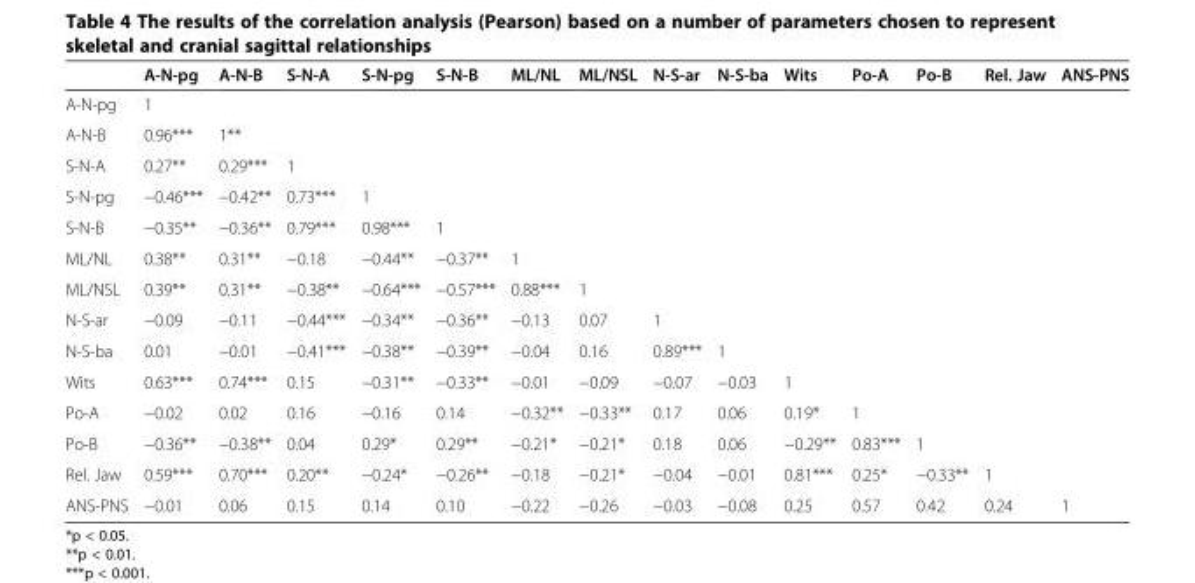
<table><thead><tr><td></td><td>A-N-pg</td><td>A-N-B</td><td>S-N-A</td><td>S-N-pg</td><td>S-N-B</td><td>ML/NL</td><td>ML/NSL</td><td>N-S-ar</td><td>N-S-ba</td><td>Wits</td><td>Po-A</td><td>Po-B</td><td>Rel. Jaw</td><td>ANS-PNS</td></tr></thead><tbody><tr><td>A-N-pg</td><td>1</td><td></td><td></td><td></td><td></td><td></td><td></td><td></td><td></td><td></td><td></td><td></td><td></td><td></td></tr><tr><td>A-N-B</td><td>0.96***</td><td>1**</td><td></td><td></td><td></td><td></td><td></td><td></td><td></td><td></td><td></td><td></td><td></td><td></td></tr><tr><td>S-N-A</td><td>0.27**</td><td>0.29***</td><td>1</td><td></td><td></td><td></td><td></td><td></td><td></td><td></td><td></td><td></td><td></td><td></td></tr><tr><td>S-N-pg</td><td>−0.46***</td><td>−0.42**</td><td>0.73***</td><td>1</td><td></td><td></td><td></td><td></td><td></td><td></td><td></td><td></td><td></td><td></td></tr><tr><td>S-N-B</td><td>−0.35**</td><td>−0.36**</td><td>0.79***</td><td>0.98***</td><td>1</td><td></td><td></td><td></td><td></td><td></td><td></td><td></td><td></td><td></td></tr><tr><td>ML/NL</td><td>0.38**</td><td>0.31**</td><td>−0.18</td><td>−0.44**</td><td>−0.37**</td><td>1</td><td></td><td></td><td></td><td></td><td></td><td></td><td></td><td></td></tr><tr><td>ML/NSL</td><td>0.39**</td><td>0.31**</td><td>−0.38**</td><td>−0.64***</td><td>−0.57***</td><td>0.88***</td><td>1</td><td></td><td></td><td></td><td></td><td></td><td></td><td></td></tr><tr><td>N-S-ar</td><td>−0.09</td><td>−0.11</td><td>−0.44***</td><td>−0.34**</td><td>−0.36**</td><td>−0.13</td><td>0.07</td><td>1</td><td></td><td></td><td></td><td></td><td></td><td></td></tr><tr><td>N-S-ba</td><td>0.01</td><td>−0.01</td><td>−0.41***</td><td>−0.38**</td><td>−0.39**</td><td>−0.04</td><td>0.16</td><td>0.89***</td><td>1</td><td></td><td></td><td></td><td></td><td></td></tr><tr><td>Wits</td><td>0.63***</td><td>0.74***</td><td>0.15</td><td>−0.31**</td><td>−0.33**</td><td>−0.01</td><td>−0.09</td><td>−0.07</td><td>−0.03</td><td>1</td><td></td><td></td><td></td><td></td></tr><tr><td>Po-A</td><td>−0.02</td><td>0.02</td><td>0.16</td><td>−0.16</td><td>0.14</td><td>−0.32**</td><td>−0.33**</td><td>0.17</td><td>0.06</td><td>0.19*</td><td>1</td><td></td><td></td><td></td></tr><tr><td>Po-B</td><td>−0.36**</td><td>−0.38**</td><td>0.04</td><td>0.29*</td><td>0.29**</td><td>−0.21*</td><td>−0.21*</td><td>0.18</td><td>0.06</td><td>−0.29**</td><td>0.83***</td><td>1</td><td></td><td></td></tr><tr><td>Rel. Jaw</td><td>0.59***</td><td>0.70***</td><td>0.20**</td><td>−0.24*</td><td>−0.26**</td><td>−0.18</td><td>−0.21*</td><td>−0.04</td><td>−0.01</td><td>0.81***</td><td>0.25*</td><td>−0.33**</td><td>1</td><td></td></tr><tr><td>ANS-PNS</td><td>−0.01</td><td>0.06</td><td>0.15</td><td>0.14</td><td>0.10</td><td>−0.22</td><td>−0.26</td><td>−0.03</td><td>−0.08</td><td>0.25</td><td>0.57</td><td>0.42</td><td>0.24</td><td>1</td></tr></tbody></table>